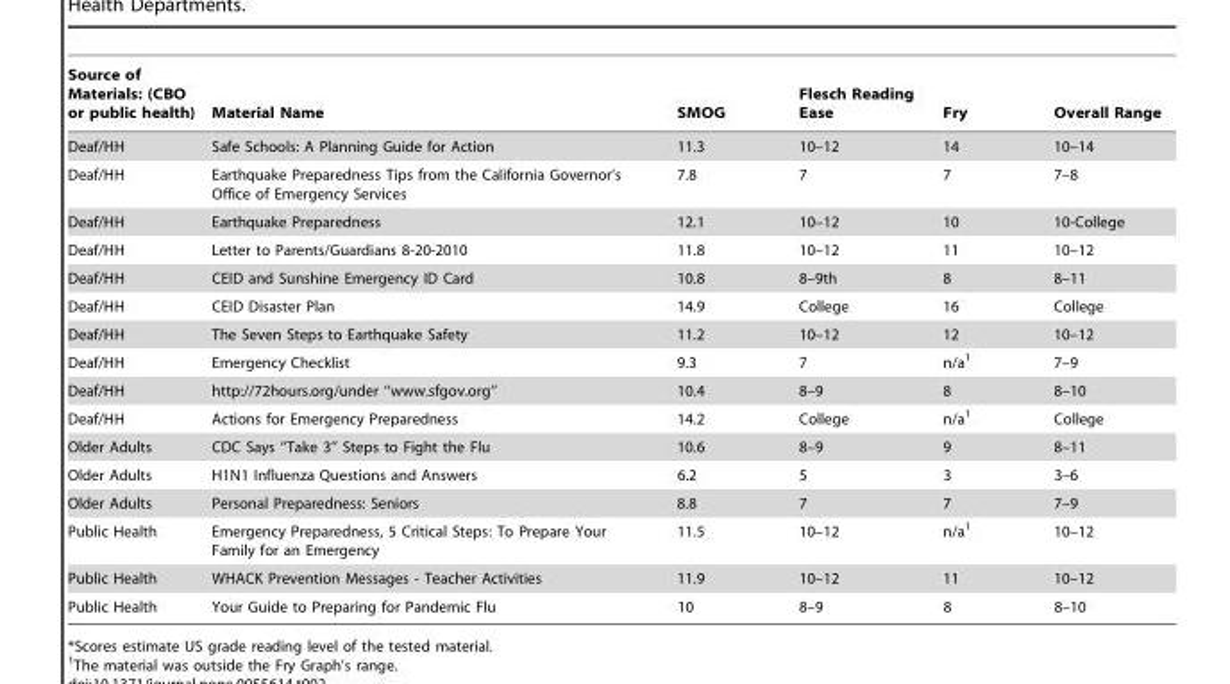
<table><thead><tr><td>Source of Materials: (CBO or public health)</td><td>Material Name</td><td>SMOG</td><td>Flesch Reading Ease</td><td>Fry</td><td>Overall Range</td></tr></thead><tbody><tr><td>Deaf/HH</td><td>Safe Schools: A Planning Guide for Action</td><td>11.3</td><td>10–12</td><td>14</td><td>10–14</td></tr><tr><td>Deaf/HH</td><td>Earthquake Preparedness Tips from the California Governor’s Office of Emergency Services</td><td>7.8</td><td>7</td><td>7</td><td>7–8</td></tr><tr><td>Deaf/HH</td><td>Earthquake Preparedness</td><td>12.1</td><td>10–12</td><td>10</td><td>10-College</td></tr><tr><td>Deaf/HH</td><td>Letter to Parents/Guardians 8-20-2010</td><td>11.8</td><td>10–12</td><td>11</td><td>10–12</td></tr><tr><td>Deaf/HH</td><td>CEID and Sunshine Emergency ID Card</td><td>10.8</td><td>8–9th</td><td>8</td><td>8–11</td></tr><tr><td>Deaf/HH</td><td>CEID Disaster Plan</td><td>14.9</td><td>College</td><td>16</td><td>College</td></tr><tr><td>Deaf/HH</td><td>The Seven Steps to Earthquake Safety</td><td>11.2</td><td>10–12</td><td>12</td><td>10–12</td></tr><tr><td>Deaf/HH</td><td>Emergency Checklist</td><td>9.3</td><td>7</td><td>n/a<sup>1</sup></td><td>7–9</td></tr><tr><td>Deaf/HH</td><td>http://72hours.org/under ‘‘www.sfgov.org’’</td><td>10.4</td><td>8–9</td><td>8</td><td>8–10</td></tr><tr><td>Deaf/HH</td><td>Actions for Emergency Preparedness</td><td>14.2</td><td>College</td><td>n/a<sup>1</sup></td><td>College</td></tr><tr><td>Older Adults</td><td>CDC Says ‘‘Take 3’’ Steps to Fight the Flu</td><td>10.6</td><td>8–9</td><td>9</td><td>8–11</td></tr><tr><td>Older Adults</td><td>H1N1 Influenza Questions and Answers</td><td>6.2</td><td>5</td><td>3</td><td>3–6</td></tr><tr><td>Older Adults</td><td>Personal Preparedness: Seniors</td><td>8.8</td><td>7</td><td>7</td><td>7–9</td></tr><tr><td>Public Health</td><td>Emergency Preparedness, 5 Critical Steps: To Prepare Your Family for an Emergency</td><td>11.5</td><td>10–12</td><td>n/a<sup>1</sup></td><td>10–12</td></tr><tr><td>Public Health</td><td>WHACK Prevention Messages - Teacher Activities</td><td>11.9</td><td>10–12</td><td>11</td><td>10–12</td></tr><tr><td>Public Health</td><td>Your Guide to Preparing for Pandemic Flu</td><td>10</td><td>8–9</td><td>8</td><td>8–10</td></tr></tbody></table>